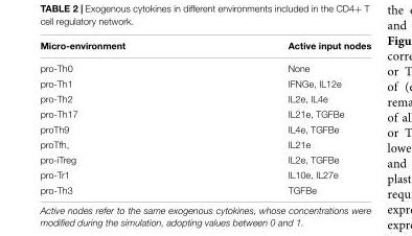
<table><thead><tr><td>Micro-environment</td><td>Active input nodes</td></tr></thead><tbody><tr><td>pro-Th0</td><td>None</td></tr><tr><td>pro-Th1</td><td>IFNGe, IL12e</td></tr><tr><td>pro-Th2</td><td>IL2e, IL4e</td></tr><tr><td>pro-Th17</td><td>IL21e, TGFBe</td></tr><tr><td>proTh9</td><td>IL4e, TGFBe</td></tr><tr><td>proTfh,</td><td>IL21e</td></tr><tr><td>pro-iTreg</td><td>IL2e, TGFBe</td></tr><tr><td>pro-Tr1</td><td>IL10e, IL27e</td></tr><tr><td>pro-Th3</td><td>TGFBe</td></tr></tbody></table>